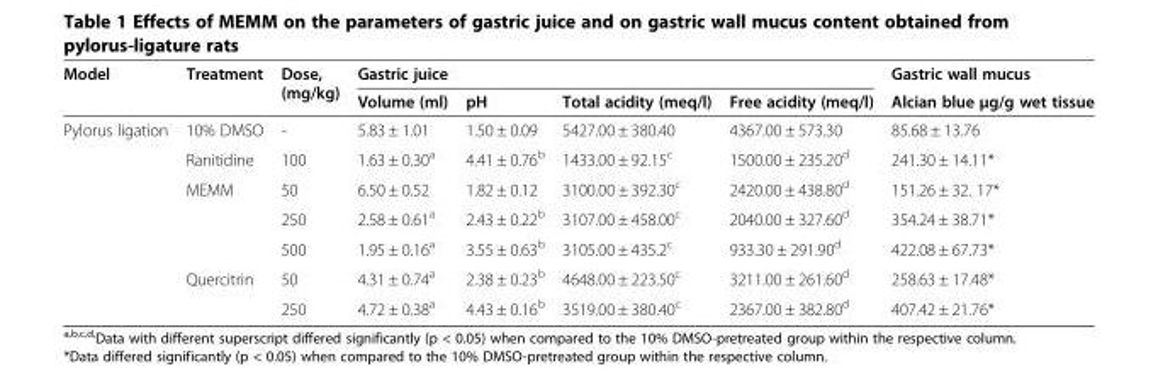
<table><thead><tr><td rowspan="2">Model</td><td rowspan="2">Treatment</td><td rowspan="2">Dose, (mg/kg)</td><td colspan="4">Gastric juice</td><td rowspan="2">Gastric wall mucus Alcian blue μg/g wet tissue</td></tr><tr><td>Volume (ml)</td><td>pH</td><td>Total acidity (meq/l)</td><td>Free acidity (meq/l)</td></tr></thead><tbody><tr><td rowspan="7">Pylorus ligation</td><td>10% DMSO</td><td>-</td><td>5.83 ± 1.01</td><td>1.50 ± 0.09</td><td>5427.00 ± 380.40</td><td>4367.00 ± 573.30</td><td>85.68 ± 13.76</td></tr><tr><td>Ranitidine</td><td>100</td><td>1.63 ± 0.30<sup>a</sup></td><td>4.41 ± 0.76<sup>b</sup></td><td>1433.00 ± 92.15<sup>c</sup></td><td>1500.00 ± 235.20<sup>d</sup></td><td>241.30 ± 14.11*</td></tr><tr><td rowspan="3">MEMM</td><td>50</td><td>6.50 ± 0.52</td><td>1.82 ± 0.12</td><td>3100.00 ± 392.30<sup>c</sup></td><td>2420.00 ± 438.80<sup>d</sup></td><td>151.26 ± 32. 17*</td></tr><tr><td>250</td><td>2.58 ± 0.61<sup>a</sup></td><td>2.43 ± 0.22<sup>b</sup></td><td>3107.00 ± 458.00<sup>c</sup></td><td>2040.00 ± 327.60<sup>d</sup></td><td>354.24 ± 38.71*</td></tr><tr><td>500</td><td>1.95 ± 0.16<sup>a</sup></td><td>3.55 ± 0.63<sup>b</sup></td><td>3105.00 ± 435.2<sup>c</sup></td><td>933.30 ± 291.90<sup>d</sup></td><td>422.08 ± 67.73*</td></tr><tr><td rowspan="2">Quercitrin</td><td>50</td><td>4.31 ± 0.74<sup>a</sup></td><td>2.38 ± 0.23<sup>b</sup></td><td>4648.00 ± 223.50<sup>c</sup></td><td>3211.00 ± 261.60<sup>d</sup></td><td>258.63 ± 17.48*</td></tr><tr><td>250</td><td>4.72 ± 0.38<sup>a</sup></td><td>4.43 ± 0.16<sup>b</sup></td><td>3519.00 ± 380.40<sup>c</sup></td><td>2367.00 ± 382.80<sup>d</sup></td><td>407.42 ± 21.76*</td></tr></tbody></table>